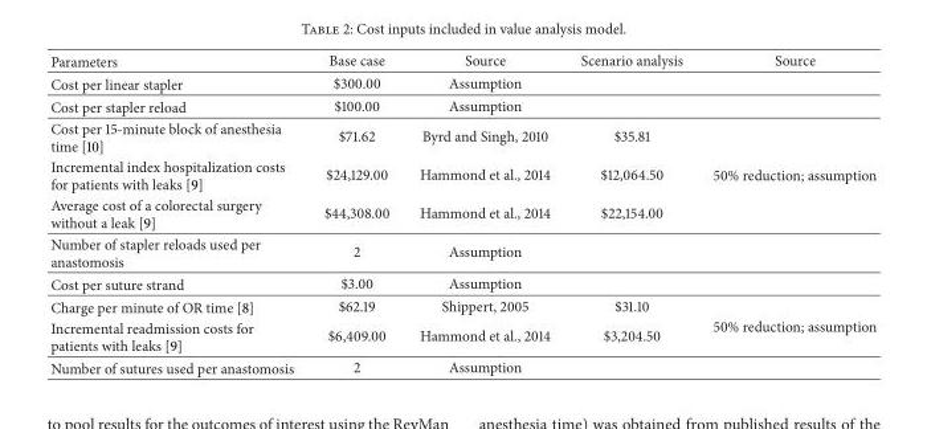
<table><thead><tr><td>Parameters</td><td>Base case</td><td>Source</td><td>Scenario analysis</td><td>Source</td></tr></thead><tbody><tr><td>Cost per linear stapler</td><td>$300.00</td><td>Assumption</td><td></td><td></td></tr><tr><td>Cost per stapler reload</td><td>$100.00</td><td>Assumption</td><td></td><td></td></tr><tr><td>Cost per 15-minute block of anesthesia time [10]</td><td>$71.62</td><td>Byrd and Singh, 2010</td><td>$35.81</td><td rowspan="3">50% reduction; assumption</td></tr><tr><td>Incremental index hospitalization costs for patients with leaks [9]</td><td>$24,129.00</td><td>Hammond et al., 2014</td><td>$12,064.50</td></tr><tr><td>Average cost of a colorectal surgery without a leak [9]</td><td>$44,308.00</td><td>Hammond et al., 2014</td><td>$22,154.00</td></tr><tr><td>Number of stapler reloads used per anastomosis</td><td>2</td><td>Assumption</td><td></td><td></td></tr><tr><td>Cost per suture strand</td><td>$3.00</td><td>Assumption</td><td></td><td></td></tr><tr><td>Charge per minute of OR time [8]</td><td>$62.19</td><td>Shippert, 2005</td><td>$31.10</td><td rowspan="2">50% reduction; assumption</td></tr><tr><td>Incremental readmission costs for patients with leaks [9]</td><td>$6,409.00</td><td>Hammond et al., 2014</td><td>$3,204.50</td></tr><tr><td>Number of sutures used per anastomosis</td><td>2</td><td>Assumption</td><td></td><td></td></tr></tbody></table>